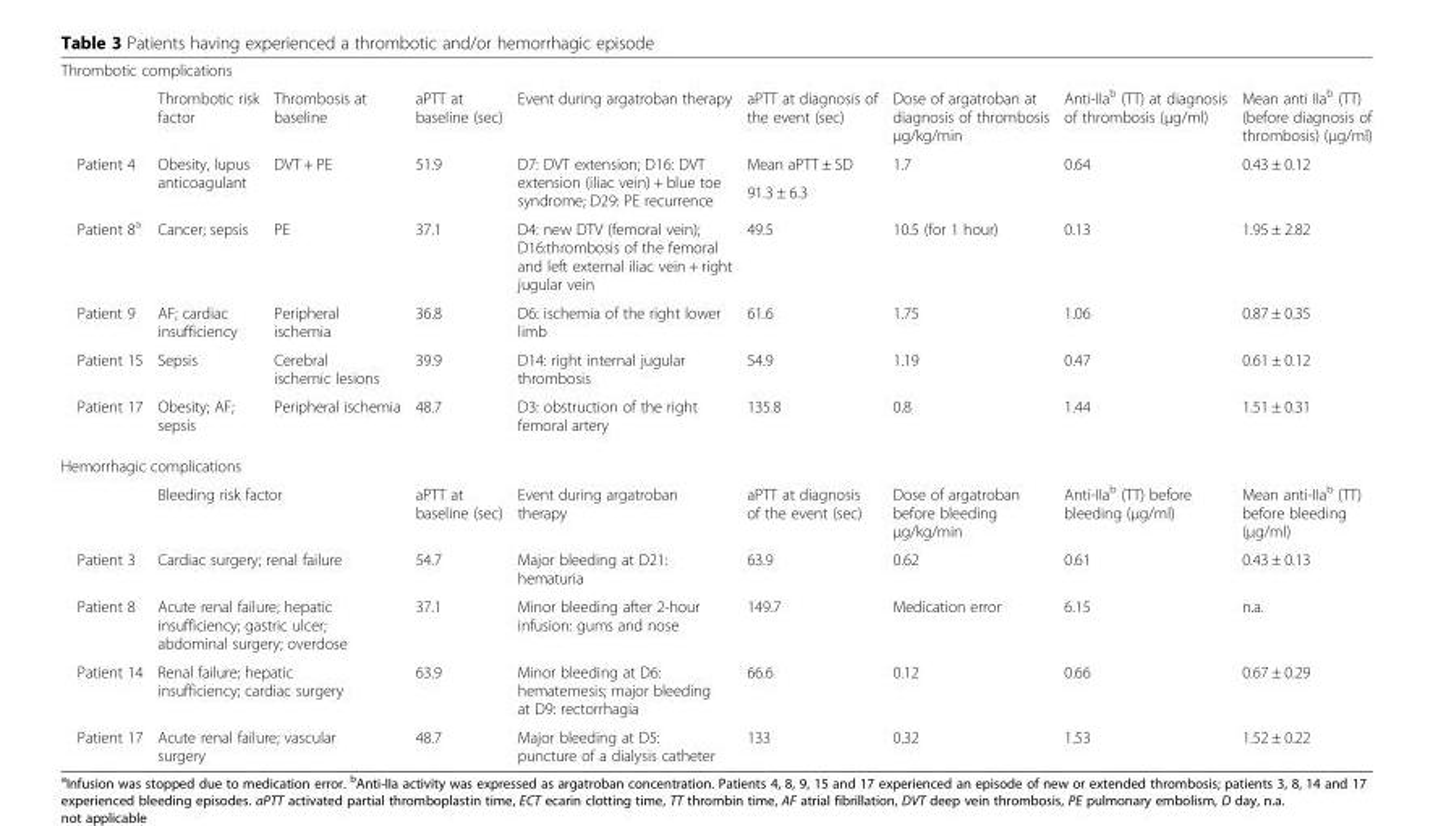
<table><tbody><tr><td colspan="9">Thrombotic complications</td></tr><tr><td></td><td>Thrombotic risk factor</td><td>Thrombosis at baseline</td><td>aPTT at baseline (sec)</td><td>Event during argatroban therapy</td><td>aPTT at diagnosis of the event (sec)</td><td>Dose of argatroban at diagnosis of thrombosis μg/kg/min</td><td>Anti-IIa<sup>b</sup> (TT) at diagnosis of thrombosis (μg/ml)</td><td>Mean anti IIa<sup>b</sup> (TT) (before diagnosis of thrombosis) (μg/ml)</td></tr><tr><td rowspan="2">Patient 4</td><td rowspan="2">Obesity, lupus anticoagulant</td><td rowspan="2">DVT + PE</td><td rowspan="2">51.9</td><td rowspan="2">D7: DVT extension; D16: DVT extension (iliac vein) + blue toe syndrome; D29: PE recurrence</td><td>Mean aPTT ± SD</td><td rowspan="2">1.7</td><td rowspan="2">0.64</td><td rowspan="2">0.43 ± 0.12</td></tr><tr><td>91.3 ± 6.3</td></tr><tr><td>Patient 8<sup>a</sup></td><td>Cancer; sepsis</td><td>PE</td><td>37.1</td><td>D4: new DTV (femoral vein); D16:thrombosis of the femoral and left external iliac vein + right jugular vein</td><td>49.5</td><td>10.5 (for 1 hour)</td><td>0.13</td><td>1.95 ± 2.82</td></tr><tr><td>Patient 9</td><td>AF; cardiac insufficiency</td><td>Peripheral ischemia</td><td>36.8</td><td>D6: ischemia of the right lower limb</td><td>61.6</td><td>1.75</td><td>1.06</td><td>0.87 ± 0.35</td></tr><tr><td>Patient 15</td><td>Sepsis</td><td>Cerebral ischemic lesions</td><td>39.9</td><td>D14: right internal jugular thrombosis</td><td>54.9</td><td>1.19</td><td>0.47</td><td>0.61 ± 0.12</td></tr><tr><td>Patient 17</td><td>Obesity; AF; sepsis</td><td>Peripheral ischemia</td><td>48.7</td><td>D3: obstruction of the right femoral artery</td><td>135.8</td><td>0.8</td><td>1.44</td><td>1.51 ± 0.31</td></tr><tr><td colspan="9">Hemorrhagic complications</td></tr><tr><td></td><td colspan="2">Bleeding risk factor</td><td>aPTT at baseline (sec)</td><td>Event during argatroban therapy</td><td>aPTT at diagnosis of the event (sec)</td><td>Dose of argatroban before bleeding μg/kg/min</td><td>Anti-IIa<sup>b</sup> (TT) before bleeding (μg/ml)</td><td>Mean anti-IIa<sup>b</sup> (TT) before bleeding (μg/ml)</td></tr><tr><td>Patient 3</td><td colspan="2">Cardiac surgery; renal failure</td><td>54.7</td><td>Major bleeding at D21: hematuria</td><td>63.9</td><td>0.62</td><td>0.61</td><td>0.43 ± 0.13</td></tr><tr><td>Patient 8</td><td colspan="2">Acute renal failure; hepatic insufficiency; gastric ulcer; abdominal surgery; overdose</td><td>37.1</td><td>Minor bleeding after 2-hour infusion: gums and nose</td><td>149.7</td><td>Medication error</td><td>6.15</td><td>n.a.</td></tr><tr><td>Patient 14</td><td colspan="2">Renal failure; hepatic insufficiency; cardiac surgery</td><td>63.9</td><td>Minor bleeding at D6: hematemesis; major bleeding at D9: rectorrhagia</td><td>66.6</td><td>0.12</td><td>0.66</td><td>0.67 ± 0.29</td></tr><tr><td>Patient 17</td><td colspan="2">Acute renal failure; vascular surgery</td><td>48.7</td><td>Major bleeding at D5: puncture of a dialysis catheter</td><td>133</td><td>0.32</td><td>1.53</td><td>1.52 ± 0.22</td></tr></tbody></table>